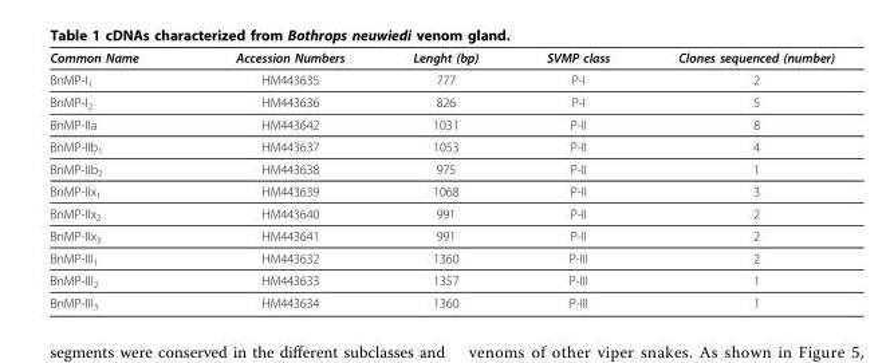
<table><thead><tr><td>Common Name</td><td>Accession Numbers</td><td>Lenght (bp)</td><td>SVMP class</td><td>Clones sequenced (number)</td></tr></thead><tbody><tr><td>BnMP-I<sub>1</sub></td><td>HM443635</td><td>777</td><td>P-I</td><td>2</td></tr><tr><td>BnMP-I<sub>2</sub></td><td>HM443636</td><td>826</td><td>P-I</td><td>5</td></tr><tr><td>BnMP-IIa</td><td>HM443642</td><td>1031</td><td>P-II</td><td>8</td></tr><tr><td>BnMP-IIb<sub>1</sub></td><td>HM443637</td><td>1053</td><td>P-II</td><td>4</td></tr><tr><td>BnMP-IIb<sub>2</sub></td><td>HM443638</td><td>975</td><td>P-II</td><td>1</td></tr><tr><td>BnMP-IIx<sub>1</sub></td><td>HM443639</td><td>1068</td><td>P-II</td><td>3</td></tr><tr><td>BnMP-IIx<sub>2</sub></td><td>HM443640</td><td>991</td><td>P-II</td><td>2</td></tr><tr><td>BnMP-IIx<sub>3</sub></td><td>HM443641</td><td>991</td><td>P-II</td><td>2</td></tr><tr><td>BnMP-III<sub>1</sub></td><td>HM443632</td><td>1360</td><td>P-III</td><td>2</td></tr><tr><td>BnMP-III<sub>2</sub></td><td>HM443633</td><td>1357</td><td>P-III</td><td>1</td></tr><tr><td>BnMP-III<sub>3</sub></td><td>HM443634</td><td>1360</td><td>P-III</td><td>1</td></tr></tbody></table>